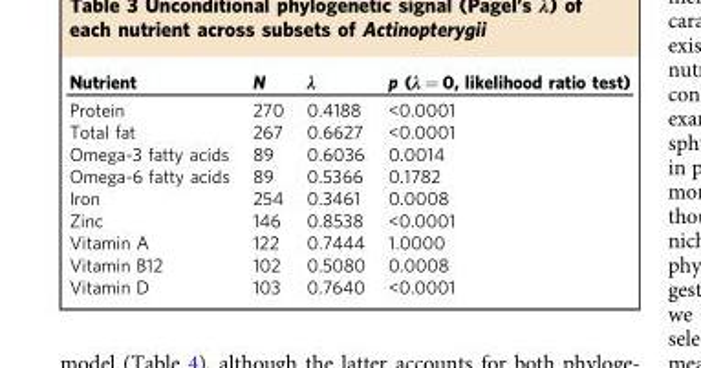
<table><thead><tr><td>Nutrient</td><td>N</td><td>λ</td><td>p (λ = 0, likelihood ratio test)</td></tr></thead><tbody><tr><td>Protein</td><td>270</td><td>0.4188</td><td>&lt;0.0001</td></tr><tr><td>Total fat</td><td>267</td><td>0.6627</td><td>&lt;0.0001</td></tr><tr><td>Omega-3 fatty acids</td><td>89</td><td>0.6036</td><td>0.0014</td></tr><tr><td>Omega-6 fatty acids</td><td>89</td><td>0.5366</td><td>0.1782</td></tr><tr><td>Iron</td><td>254</td><td>0.3461</td><td>0.0008</td></tr><tr><td>Zinc</td><td>146</td><td>0.8538</td><td>&lt;0.0001</td></tr><tr><td>Vitamin A</td><td>122</td><td>0.7444</td><td>1.0000</td></tr><tr><td>Vitamin B12</td><td>102</td><td>0.5080</td><td>0.0008</td></tr><tr><td>Vitamin D</td><td>103</td><td>0.7640</td><td>&lt;0.0001</td></tr></tbody></table>